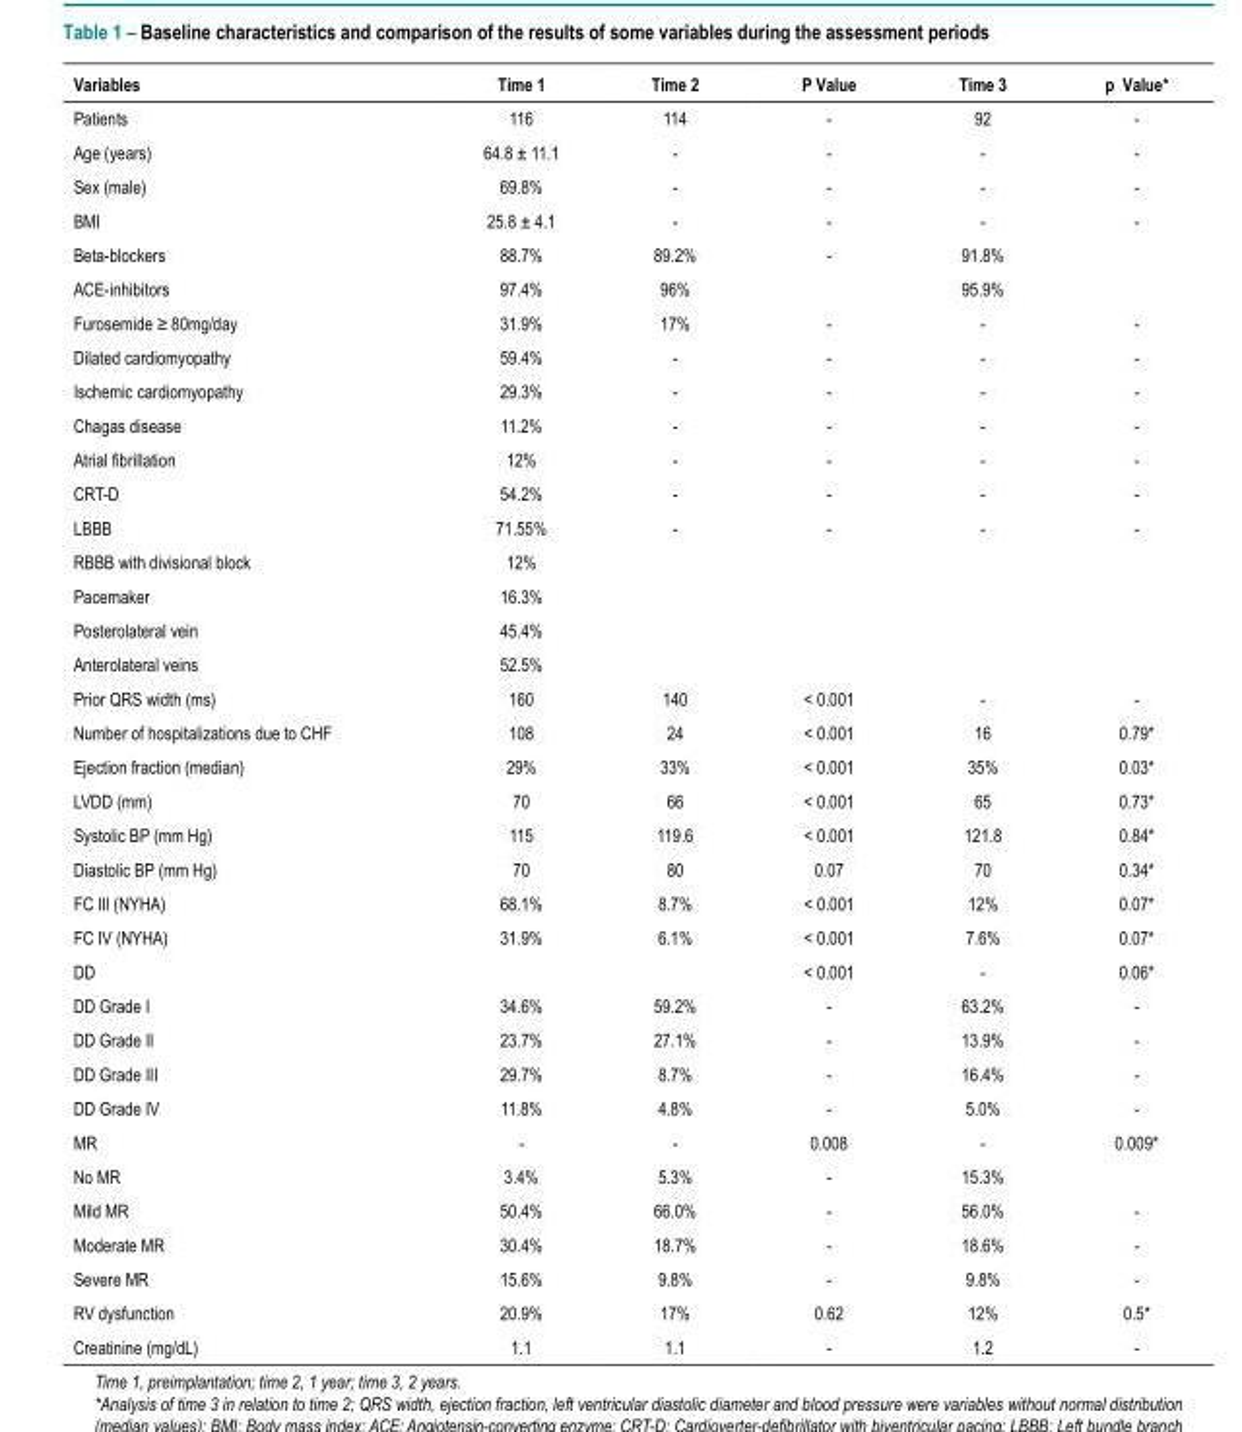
<table><thead><tr><td>Variables</td><td>Time 1</td><td>Time 2</td><td>P Value</td><td>Time 3</td><td>p Value*</td></tr></thead><tbody><tr><td>Patients</td><td>116</td><td>114</td><td>-</td><td>92</td><td>-</td></tr><tr><td>Age (years)</td><td>64.8 ± 11.1</td><td>-</td><td>-</td><td>-</td><td>-</td></tr><tr><td>Sex (male)</td><td>69.8%</td><td>-</td><td>-</td><td>-</td><td>-</td></tr><tr><td>BMI</td><td>25.8 ± 4.1</td><td>-</td><td>-</td><td>-</td><td>-</td></tr><tr><td>Beta-blockers</td><td>88.7%</td><td>89.2%</td><td>-</td><td>91.8%</td><td></td></tr><tr><td>ACE-inhibitors</td><td>97.4%</td><td>96%</td><td></td><td>95.9%</td><td></td></tr><tr><td>Furosemide ≥ 80mg/day</td><td>31.9%</td><td>17%</td><td>-</td><td>-</td><td>-</td></tr><tr><td>Dilated cardiomyopathy</td><td>59.4%</td><td>-</td><td>-</td><td>-</td><td>-</td></tr><tr><td>Ischemic cardiomyopathy</td><td>29.3%</td><td>-</td><td>-</td><td>-</td><td>-</td></tr><tr><td>Chagas disease</td><td>11.2%</td><td>-</td><td>-</td><td>-</td><td>-</td></tr><tr><td>Atrial fibrillation</td><td>12%</td><td>-</td><td>-</td><td>-</td><td>-</td></tr><tr><td>CRT-D</td><td>54.2%</td><td>-</td><td>-</td><td>-</td><td>-</td></tr><tr><td>LBBB</td><td>71.55%</td><td>-</td><td>-</td><td>-</td><td>-</td></tr><tr><td>RBBB with divisional block</td><td>12%</td><td></td><td></td><td></td><td></td></tr><tr><td>Pacemaker</td><td>16.3%</td><td></td><td></td><td></td><td></td></tr><tr><td>Posterolateral vein</td><td>45.4%</td><td></td><td></td><td></td><td></td></tr><tr><td>Anterolateral veins</td><td>52.5%</td><td></td><td></td><td></td><td></td></tr><tr><td>Prior QRS width (ms)</td><td>160</td><td>140</td><td>&lt; 0.001</td><td>-</td><td>-</td></tr><tr><td>Number of hospitalizations due to CHF</td><td>108</td><td>24</td><td>&lt; 0.001</td><td>16</td><td>0.79*</td></tr><tr><td>Ejection fraction (median)</td><td>29%</td><td>33%</td><td>&lt; 0.001</td><td>35%</td><td>0.03*</td></tr><tr><td>LVDD (mm)</td><td>70</td><td>66</td><td>&lt; 0.001</td><td>65</td><td>0.73*</td></tr><tr><td>Systolic BP (mm Hg)</td><td>115</td><td>119.6</td><td>&lt; 0.001</td><td>121.8</td><td>0.84*</td></tr><tr><td>Diastolic BP (mm Hg)</td><td>70</td><td>80</td><td>0.07</td><td>70</td><td>0.34*</td></tr><tr><td>FC IIl (NYHA)</td><td>68.1%</td><td>8.7%</td><td>&lt; 0.001</td><td>12%</td><td>0.07*</td></tr><tr><td>FC IV (NYHA)</td><td>31.9%</td><td>6.1%</td><td>&lt; 0.001</td><td>7.6%</td><td>0.07*</td></tr><tr><td>DD</td><td></td><td></td><td>&lt; 0.001</td><td>-</td><td>0.06*</td></tr><tr><td>DD Grade I</td><td>34.6%</td><td>59.2%</td><td>-</td><td>63.2%</td><td>-</td></tr><tr><td>DD Grade II</td><td>23.7%</td><td>27.1%</td><td>-</td><td>13.9%</td><td>-</td></tr><tr><td>DD Grade III</td><td>29.7%</td><td>8.7%</td><td>-</td><td>16.4%</td><td>-</td></tr><tr><td>DD Grade IV</td><td>11.8%</td><td>4.8%</td><td>-</td><td>5.0%</td><td>-</td></tr><tr><td>MR</td><td>-</td><td>-</td><td>0.008</td><td>-</td><td>0.009*</td></tr><tr><td>No MR</td><td>3.4%</td><td>5.3%</td><td>-</td><td>15.3%</td><td></td></tr><tr><td>Mild MR</td><td>50.4%</td><td>66.0%</td><td>-</td><td>56.0%</td><td>-</td></tr><tr><td>Moderate MR</td><td>30.4%</td><td>18.7%</td><td>-</td><td>18.6%</td><td>-</td></tr><tr><td>Severe MR</td><td>15.6%</td><td>9.8%</td><td>-</td><td>9.8%</td><td>-</td></tr><tr><td>RV dysfunction</td><td>20.9%</td><td>17%</td><td>0.62</td><td>12%</td><td>0.5*</td></tr><tr><td>Creatinine (mg/dL)</td><td>1.1</td><td>1.1</td><td>-</td><td>1.2</td><td>-</td></tr></tbody></table>